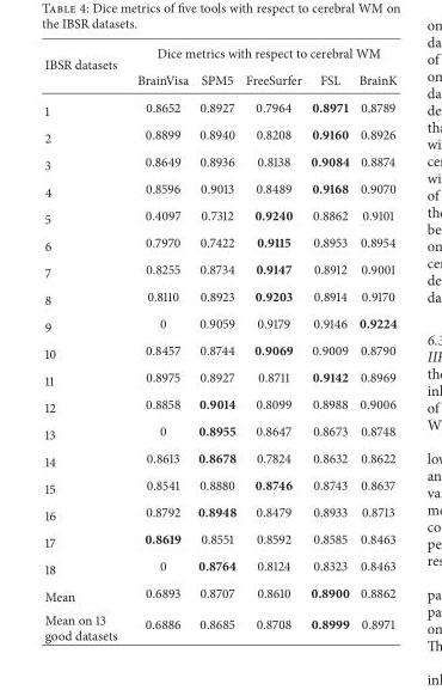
<table><thead><tr><td rowspan="2">IBSR datasets</td><td colspan="5">Dice metrics with respect to cerebral WM</td></tr><tr><td>BrainVisa</td><td>SPM5</td><td>FreeSurfer</td><td>FSL</td><td>BrainK</td></tr></thead><tbody><tr><td>1</td><td>0.8652</td><td>0.8927</td><td>0.7964</td><td>0.8971</td><td>0.8789</td></tr><tr><td>2</td><td>0.8899</td><td>0.8940</td><td>0.8208</td><td>0.9160</td><td>0.8926</td></tr><tr><td>3</td><td>0.8649</td><td>0.8936</td><td>0.8138</td><td>0.9084</td><td>0.8874</td></tr><tr><td>4</td><td>0.8596</td><td>0.9013</td><td>0.8489</td><td>0.9168</td><td>0.9070</td></tr><tr><td>5</td><td>0.4097</td><td>0.7312</td><td>0.9240</td><td>0.8862</td><td>0.9101</td></tr><tr><td>6</td><td>0.7970</td><td>0.7422</td><td>0.9115</td><td>0.8953</td><td>0.8954</td></tr><tr><td>7</td><td>0.8255</td><td>0.8734</td><td>0.9147</td><td>0.8912</td><td>0.9001</td></tr><tr><td>8</td><td>0.8110</td><td>0.8923</td><td>0.9203</td><td>0.8914</td><td>0.9170</td></tr><tr><td>9</td><td>0</td><td>0.9059</td><td>0.9179</td><td>0.9146</td><td>0.9224</td></tr><tr><td>10</td><td>0.8457</td><td>0.8744</td><td>0.9069</td><td>0.9009</td><td>0.8790</td></tr><tr><td>11</td><td>0.8975</td><td>0.8927</td><td>0.8711</td><td>0.9142</td><td>0.8969</td></tr><tr><td>12</td><td>0.8858</td><td>0.9014</td><td>0.8099</td><td>0.8988</td><td>0.9006</td></tr><tr><td>13</td><td>0</td><td>0.8955</td><td>0.8647</td><td>0.8673</td><td>0.8748</td></tr><tr><td>14</td><td>0.8613</td><td>0.8678</td><td>0.7824</td><td>0.8632</td><td>0.8622</td></tr><tr><td>15</td><td>0.8541</td><td>0.8880</td><td>0.8746</td><td>0.8743</td><td>0.8637</td></tr><tr><td>16</td><td>0.8792</td><td>0.8948</td><td>0.8479</td><td>0.8933</td><td>0.8713</td></tr><tr><td>17</td><td>0.8619</td><td>0.8551</td><td>0.8592</td><td>0.8585</td><td>0.8463</td></tr><tr><td>18</td><td>0</td><td>0.8764</td><td>0.8124</td><td>0.8323</td><td>0.8463</td></tr><tr><td>Mean</td><td>0.6893</td><td>0.8707</td><td>0.8610</td><td>0.8900</td><td>0.8862</td></tr><tr><td>Mean on 13 good datasets</td><td>0.6886</td><td>0.8685</td><td>0.8708</td><td>0.8999</td><td>0.8971</td></tr></tbody></table>